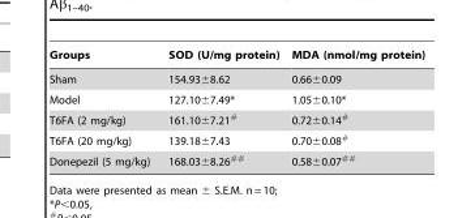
<table><thead><tr><td>Groups</td><td>SOD (U/mg protein)</td><td>MDA (nmol/mg protein)</td></tr></thead><tbody><tr><td>Sham</td><td>154.93±8.62</td><td>0.66±0.09</td></tr><tr><td>Model</td><td>127.10±7.49*</td><td>1.05±0.10*</td></tr><tr><td>T6FA (2 mg/kg)</td><td>161.10±7.21#</td><td>0.72±0.14#</td></tr><tr><td>T6FA (20 mg/kg)</td><td>139.18±7.43</td><td>0.70±0.08#</td></tr><tr><td>Donepezil (5 mg/kg)</td><td>168.03±8.26##</td><td>0.58±0.07##</td></tr></tbody></table>